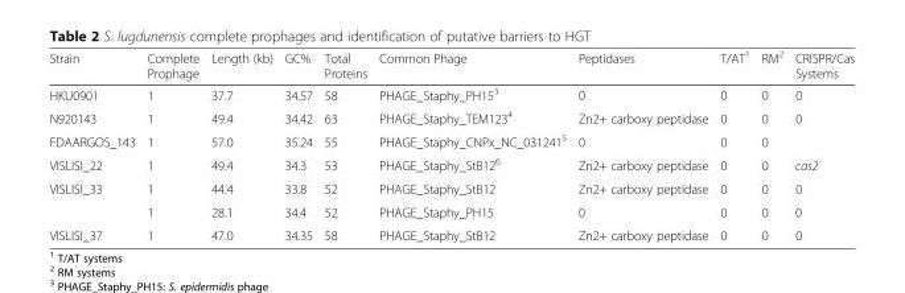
<table><thead><tr><td>Strain</td><td>Complete Prophage</td><td>Length (kb)</td><td>GC%</td><td>Total Proteins</td><td>Common Phage</td><td>Peptidases</td><td>T/AT<sup>1</sup></td><td>RM<sup>2</sup></td><td>CRISPR/Cas Systems</td></tr></thead><tbody><tr><td>HKU0901</td><td>1</td><td>37.7</td><td>34.57</td><td>58</td><td>PHAGE_Staphy_PH15<sup>3</sup></td><td>0</td><td>0</td><td>0</td><td>0</td></tr><tr><td>N920143</td><td>1</td><td>49.4</td><td>34.42</td><td>63</td><td>PHAGE_Staphy_TEM123<sup>4</sup></td><td>Zn2+ carboxy peptidase</td><td>0</td><td>0</td><td>0</td></tr><tr><td>FDAARGOS_143</td><td>1</td><td>57.0</td><td>35.24</td><td>55</td><td>PHAGE_Staphy_CNPx_NC_031241<sup>5</sup></td><td>0</td><td>0</td><td>0</td><td></td></tr><tr><td>VISLISI_22</td><td>1</td><td>49.4</td><td>34.3</td><td>53</td><td>PHAGE_Staphy_StB12<sup>6</sup></td><td>Zn2+ carboxy peptidase</td><td>0</td><td>0</td><td>cas2</td></tr><tr><td rowspan="2">VISLISI_33</td><td>1</td><td>44.4</td><td>33.8</td><td>52</td><td>PHAGE_Staphy_StB12</td><td>Zn2+ carboxy peptidase</td><td>0</td><td>0</td><td>0</td></tr><tr><td>1</td><td>28.1</td><td>34.4</td><td>52</td><td>PHAGE_Staphy_PH15</td><td>0</td><td>0</td><td>0</td><td>0</td></tr><tr><td>VISLISI_37</td><td>1</td><td>47.0</td><td>34.35</td><td>58</td><td>PHAGE_Staphy_StB12</td><td>Zn2+ carboxy peptidase</td><td>0</td><td>0</td><td>0</td></tr></tbody></table>